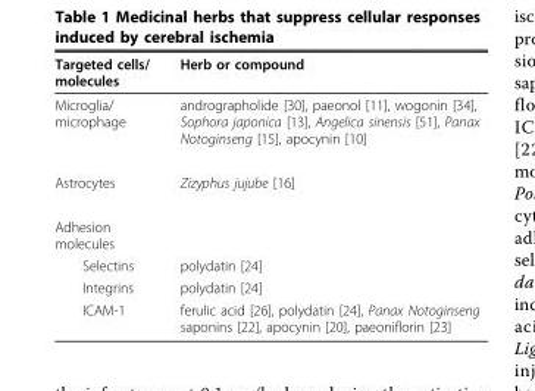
<table><tbody><tr><td>Targeted cells/ molecules</td><td>Herb or compound</td></tr><tr><td>Microglia/ microphage</td><td>andrographolide [30], paeonol [11], wogonin [34], Sophora japonica [13], Angelica sinensis [51], Panax Notoginseng [15], apocynin [10]</td></tr><tr><td>Astrocytes</td><td>Zizyphus jujube [16]</td></tr><tr><td colspan="2">Adhesion molecules</td></tr><tr><td>Selectins</td><td>polydatin [24]</td></tr><tr><td>Integrins</td><td>polydatin [24]</td></tr><tr><td>ICAM-1</td><td>ferulic acid [26], polydatin [24], Panax Notoginseng saponins [22], apocynin [20], paeoniflorin [23]</td></tr></tbody></table>